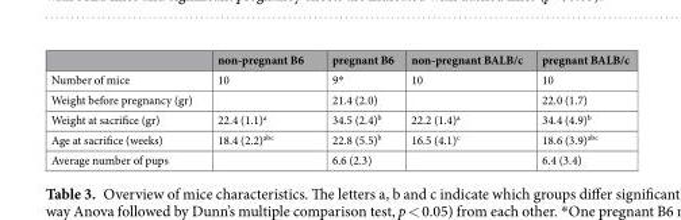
<table><thead><tr><td></td><td>non-pregnant B6</td><td>pregnant B6</td><td>non-pregnant BALB/c</td><td>pregnant BALB/c</td></tr></thead><tbody><tr><td>Number of mice</td><td>10</td><td>9*</td><td>10</td><td>10</td></tr><tr><td>Weight before pregnancy (gr)</td><td></td><td>21.4 (2.0)</td><td></td><td>22.0 (1.7)</td></tr><tr><td>Weight at sacrifice (gr)</td><td>22.4 (1.1)<sup>a</sup></td><td>34.5 (2.4)<sup>b</sup></td><td>22.2 (1.4)<sup>a</sup></td><td>34.4 (4.9)<sup>b</sup></td></tr><tr><td>Age at sacrifice (weeks)</td><td>18.4 (2.2)<sup>abc</sup></td><td>22.8 (5.5)<sup>b</sup></td><td>16.5 (4.1)<sup>c</sup></td><td>18.6 (3.9)<sup>abc</sup></td></tr><tr><td>Average number of pups</td><td></td><td>6.6 (2.3)</td><td></td><td>6.4 (3.4)</td></tr></tbody></table>